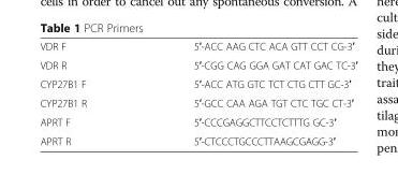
<table><tbody><tr><td>VDR F</td><td>5′-ACC AAG CTC ACA GTT CCT CG-3′</td></tr><tr><td>VDR R</td><td>5′-CGG CAG GGA GAT CAT GAC TC-3′</td></tr><tr><td>CYP27B1 F</td><td>5′-ACC ATG GTC TCT CTG CTT GC-3′</td></tr><tr><td>CYP27B1 R</td><td>5′-GCC CAA AGA TGT CTC TGC CT-3′</td></tr><tr><td>APRT F</td><td>5′-CCCGAGGCTTCCTCTTTG GC-3′</td></tr><tr><td>APRT R</td><td>5′-CTCCCTGCCCTTAAGCGAGG-3′</td></tr></tbody></table>